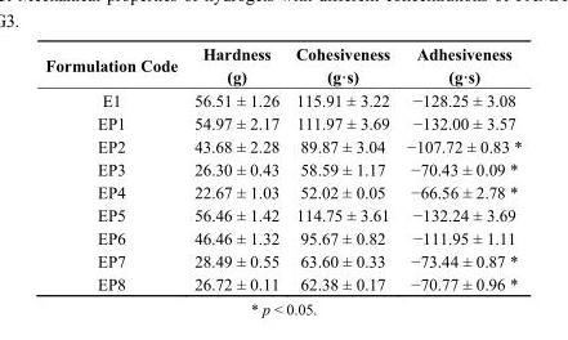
<table><thead><tr><td>Formulation Code</td><td>Hardness (g)</td><td>Cohesiveness (g·s)</td><td>Adhesiveness (g·s)</td></tr></thead><tbody><tr><td>E1</td><td>56.51 ± 1.26</td><td>115.91 ± 3.22</td><td>−128.25 ± 3.08</td></tr><tr><td>EP1</td><td>54.97 ± 2.17</td><td>111.97 ± 3.69</td><td>−132.00 ± 3.57</td></tr><tr><td>EP2</td><td>43.68 ± 2.28</td><td>89.87 ± 3.04</td><td>−107.72 ± 0.83 *</td></tr><tr><td>EP3</td><td>26.30 ± 0.43</td><td>58.59 ± 1.17</td><td>−70.43 ± 0.09 *</td></tr><tr><td>EP4</td><td>22.67 ± 1.03</td><td>52.02 ± 0.05</td><td>−66.56 ± 2.78 *</td></tr><tr><td>EP5</td><td>56.46 ± 1.42</td><td>114.75 ± 3.61</td><td>−132.24 ± 3.69</td></tr><tr><td>EP6</td><td>46.46 ± 1.32</td><td>95.67 ± 0.82</td><td>−111.95 ± 1.11</td></tr><tr><td>EP7</td><td>28.49 ± 0.55</td><td>63.60 ± 0.33</td><td>−73.44 ± 0.87 *</td></tr><tr><td>EP8</td><td>26.72 ± 0.11</td><td>62.38 ± 0.17</td><td>−70.77 ± 0.96 *</td></tr></tbody></table>